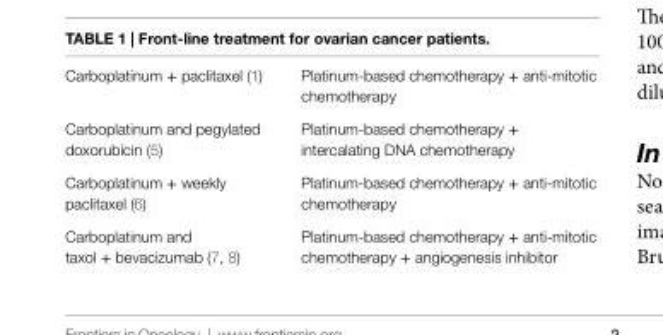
<table><tbody><tr><td>Carboplatinum + paclitaxel (1)</td><td>Platinum-based chemotherapy + anti-mitotic chemotherapy</td></tr><tr><td>Carboplatinum and pegylated doxorubicin (5)</td><td>Platinum-based chemotherapy + intercalating DNA chemotherapy</td></tr><tr><td>Carboplatinum + weekly paclitaxel (6)</td><td>Platinum-based chemotherapy + anti-mitotic chemotherapy</td></tr><tr><td>Carboplatinum and taxol + bevacizumab (7, 8)</td><td>Platinum-based chemotherapy + anti-mitotic chemotherapy + angiogenesis inhibitor</td></tr></tbody></table>